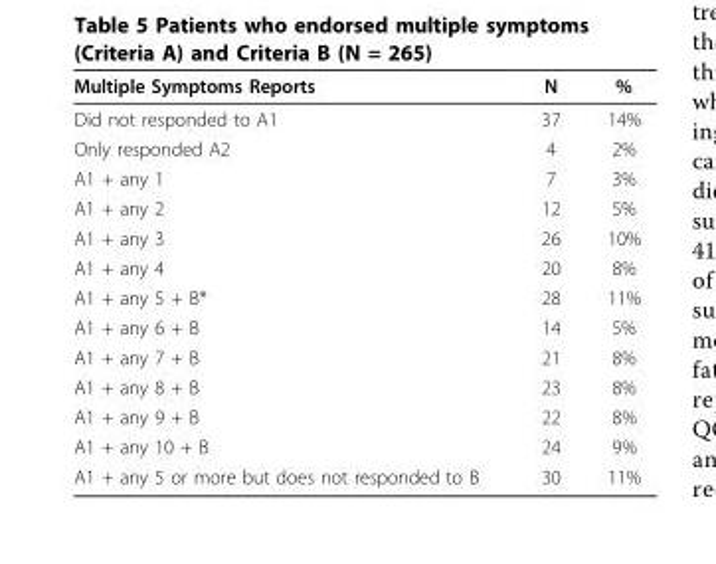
<table><thead><tr><td>Multiple Symptoms Reports</td><td>N</td><td>%</td></tr></thead><tbody><tr><td>Did not responded to A1</td><td>37</td><td>14%</td></tr><tr><td>Only responded A2</td><td>4</td><td>2%</td></tr><tr><td>A1 + any 1</td><td>7</td><td>3%</td></tr><tr><td>A1 + any 2</td><td>12</td><td>5%</td></tr><tr><td>A1 + any 3</td><td>26</td><td>10%</td></tr><tr><td>A1 + any 4</td><td>20</td><td>8%</td></tr><tr><td>A1 + any 5 + B*</td><td>28</td><td>11%</td></tr><tr><td>A1 + any 6 + B</td><td>14</td><td>5%</td></tr><tr><td>A1 + any 7 + B</td><td>21</td><td>8%</td></tr><tr><td>A1 + any 8 + B</td><td>23</td><td>8%</td></tr><tr><td>A1 + any 9 + B</td><td>22</td><td>8%</td></tr><tr><td>A1 + any 10 + B</td><td>24</td><td>9%</td></tr><tr><td>A1 + any 5 or more but does not responded to B</td><td>30</td><td>11%</td></tr></tbody></table>